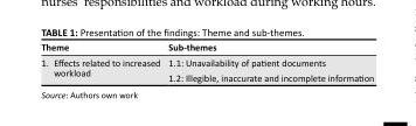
<table><thead><tr><td>Theme</td><td>Sub-themes</td></tr></thead><tbody><tr><td>1. Effects related to increased workload</td><td>1.1: Unavailability of patient documents 1.2: Illegible, inaccurate and incomplete information</td></tr></tbody></table>